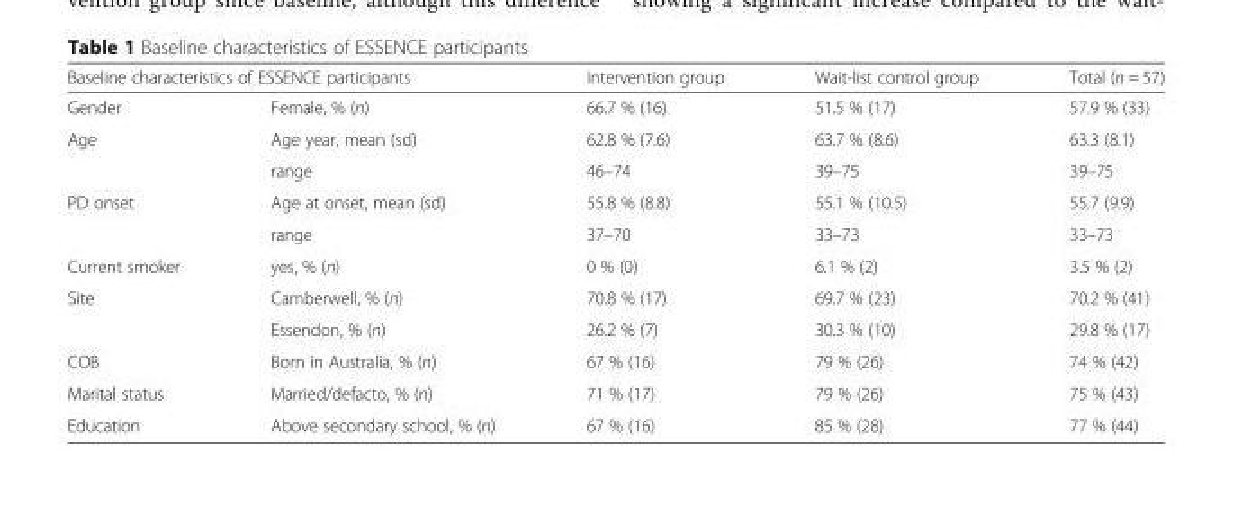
<table><thead><tr><td colspan="2">Baseline characteristics of ESSENCE participants</td><td rowspan="2">Intervention group 66.7 % (16)</td><td rowspan="2">Wait-list control group 51.5 % (17)</td><td rowspan="2">Total (n = 57) 57.9 % (33)</td></tr><tr><td>Gender</td><td>Female, % (n)</td></tr></thead><tbody><tr><td rowspan="2">Age</td><td>Age year, mean (sd)</td><td>62.8 % (7.6)</td><td>63.7 % (8.6)</td><td>63.3 (8.1)</td></tr><tr><td>range</td><td>46–74</td><td>39–75</td><td>39–75</td></tr><tr><td rowspan="2">PD onset</td><td>Age at onset, mean (sd)</td><td>55.8 % (8.8)</td><td>55.1 % (10.5)</td><td>55.7 (9.9)</td></tr><tr><td>range</td><td>37–70</td><td>33–73</td><td>33–73</td></tr><tr><td>Current smoker</td><td>yes, % (n)</td><td>0 % (0)</td><td>6.1 % (2)</td><td>3.5 % (2)</td></tr><tr><td rowspan="2">Site</td><td>Camberwell, % (n)</td><td>70.8 % (17)</td><td>69.7 % (23)</td><td>70.2 % (41)</td></tr><tr><td>Essendon, % (n)</td><td>26.2 % (7)</td><td>30.3 % (10)</td><td>29.8 % (17)</td></tr><tr><td>COB</td><td>Born in Australia, % (n)</td><td>67 % (16)</td><td>79 % (26)</td><td>74 % (42)</td></tr><tr><td>Marital status</td><td>Married/defacto, % (n)</td><td>71 % (17)</td><td>79 % (26)</td><td>75 % (43)</td></tr><tr><td>Education</td><td>Above secondary school, % (n)</td><td>67 % (16)</td><td>85 % (28)</td><td>77 % (44)</td></tr></tbody></table>